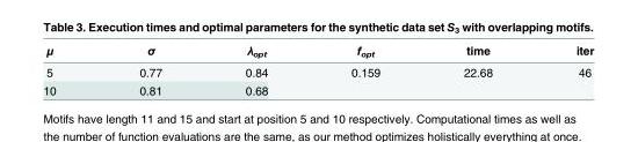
<table><thead><tr><td>μ</td><td>σ</td><td>λ<sub>opt</sub></td><td>f<sub>opt</sub></td><td>time</td><td>iter</td></tr></thead><tbody><tr><td>5</td><td>0.77</td><td>0.84</td><td rowspan="2">0.159</td><td rowspan="2">22.68</td><td rowspan="2">46</td></tr><tr><td>10</td><td>0.81</td><td>0.68</td></tr></tbody></table>